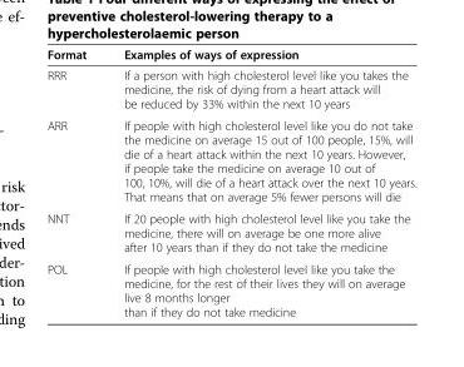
<table><thead><tr><td>Format</td><td>Examples of ways of expression</td></tr></thead><tbody><tr><td>RRR</td><td>If a person with high cholesterol level like you takes the medicine, the risk of dying from a heart attack will be reduced by 33% within the next 10 years</td></tr><tr><td>ARR</td><td>If people with high cholesterol level like you do not take the medicine on average 15 out of 100 people, 15%, will die of a heart attack within the next 10 years. However, if people take the medicine on average 10 out of 100, 10%, will die of a heart attack over the next 10 years. That means that on average 5% fewer persons will die</td></tr><tr><td>NNT</td><td>If 20 people with high cholesterol level like you take the medicine, there will on average be one more alive after 10 years than if they do not take the medicine</td></tr><tr><td>POL</td><td>If people with high cholesterol level like you take the medicine, for the rest of their lives they will on average live 8 months longer than if they do not take medicine</td></tr></tbody></table>